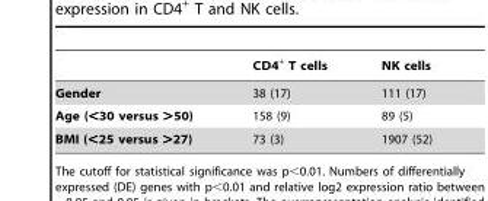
<table><thead><tr><td></td><td>CD4<sup>+</sup> T cells</td><td>NK cells</td></tr></thead><tbody><tr><td>Gender</td><td>38 (17)</td><td>111 (17)</td></tr><tr><td>Age (&lt;30 versus &gt;50)</td><td>158 (9)</td><td>89 (5)</td></tr><tr><td>BMI (&lt;25 versus &gt;27)</td><td>73 (3)</td><td>1907 (52)</td></tr></tbody></table>